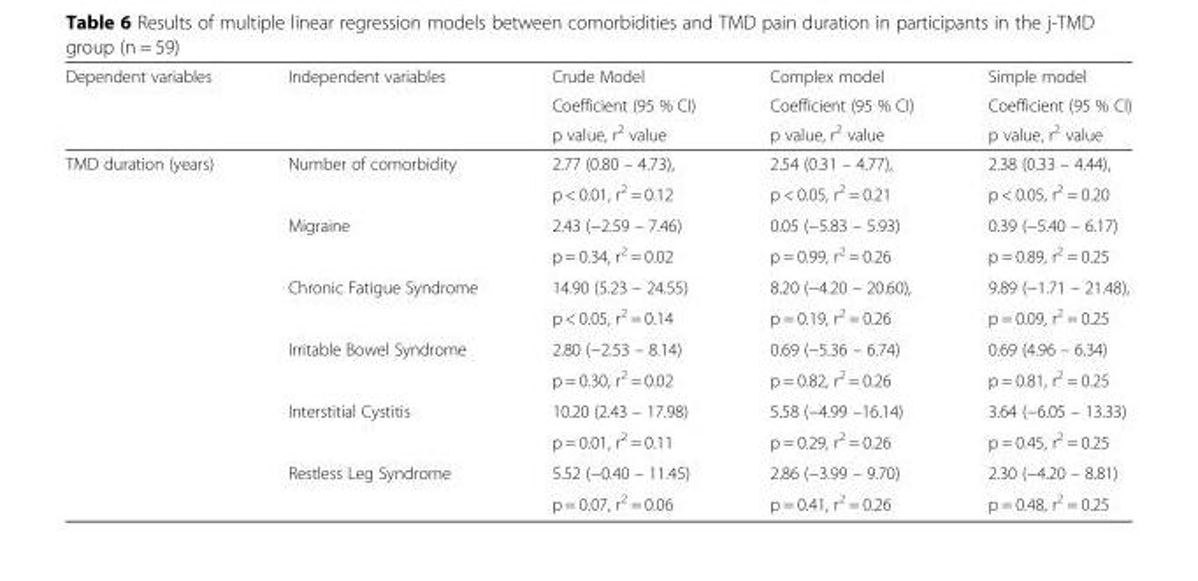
<table><thead><tr><td rowspan="3">Dependent variables</td><td rowspan="3">Independent variables</td><td rowspan="3">Crude Model Coefficient (95 % CI) p value, r<sup>2</sup> value</td><td rowspan="3">Complex model Coefficient (95 % CI) p value, r<sup>2</sup> value</td><td rowspan="3">Simple model Coefficient (95 % CI) p value, r<sup>2</sup> value</td></tr><tr></tr><tr></tr></thead><tbody><tr><td rowspan="12">TMD duration (years)</td><td rowspan="2">Number of comorbidity</td><td>2.77 (0.80 – 4.73),</td><td>2.54 (0.31 – 4.77),</td><td>2.38 (0.33 – 4.44),</td></tr><tr><td>p &lt; 0.01, r<sup>2</sup> = 0.12</td><td>p &lt; 0.05, r<sup>2</sup> = 0.21</td><td>p &lt; 0.05, r<sup>2</sup> = 0.20</td></tr><tr><td rowspan="2">Migraine</td><td>2.43 (−2.59 – 7.46)</td><td>0.05 (−5.83 – 5.93)</td><td>0.39 (−5.40 – 6.17)</td></tr><tr><td>p = 0.34, r<sup>2</sup> = 0.02</td><td>p = 0.99, r<sup>2</sup> = 0.26</td><td>p = 0.89, r<sup>2</sup> = 0.25</td></tr><tr><td rowspan="2">Chronic Fatigue Syndrome</td><td>14.90 (5.23 – 24.55)</td><td>8.20 (−4.20 – 20.60),</td><td>9.89 (−1.71 – 21.48),</td></tr><tr><td>p &lt; 0.05, r<sup>2</sup> = 0.14</td><td>p = 0.19, r<sup>2</sup> = 0.26</td><td>p = 0.09, r<sup>2</sup> = 0.25</td></tr><tr><td rowspan="2">Irritable Bowel Syndrome</td><td>2.80 (−2.53 – 8.14)</td><td>0.69 (−5.36 – 6.74)</td><td>0.69 (4.96 – 6.34)</td></tr><tr><td>p = 0.30, r<sup>2</sup> = 0.02</td><td>p = 0.82, r<sup>2</sup> = 0.26</td><td>p = 0.81, r<sup>2</sup> = 0.25</td></tr><tr><td rowspan="2">Interstitial Cystitis</td><td>10.20 (2.43 – 17.98)</td><td>5.58 (−4.99 –16.14)</td><td>3.64 (−6.05 – 13.33)</td></tr><tr><td>p = 0.01, r<sup>2</sup> = 0.11</td><td>p = 0.29, r<sup>2</sup> = 0.26</td><td>p = 0.45, r<sup>2</sup> = 0.25</td></tr><tr><td rowspan="2">Restless Leg Syndrome</td><td>5.52 (−0.40 – 11.45)</td><td>2.86 (−3.99 – 9.70)</td><td>2.30 (−4.20 – 8.81)</td></tr><tr><td>p = 0.07, r<sup>2</sup> = 0.06</td><td>p = 0.41, r<sup>2</sup> = 0.26</td><td>p = 0.48, r<sup>2</sup> = 0.25</td></tr></tbody></table>